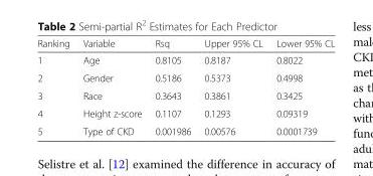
<table><thead><tr><td>Ranking</td><td>Variable</td><td>Rsq</td><td>Upper 95% CL</td><td>Lower 95% CL</td></tr></thead><tbody><tr><td>1</td><td>Age</td><td>0.8105</td><td>0.8187</td><td>0.8022</td></tr><tr><td>2</td><td>Gender</td><td>0.5186</td><td>0.5373</td><td>0.4998</td></tr><tr><td>3</td><td>Race</td><td>0.3643</td><td>0.3861</td><td>0.3425</td></tr><tr><td>4</td><td>Height z-score</td><td>0.1107</td><td>0.1293</td><td>0.09319</td></tr><tr><td>5</td><td>Type of CKD</td><td>0.001986</td><td>0.00576</td><td>0.0001739</td></tr></tbody></table>